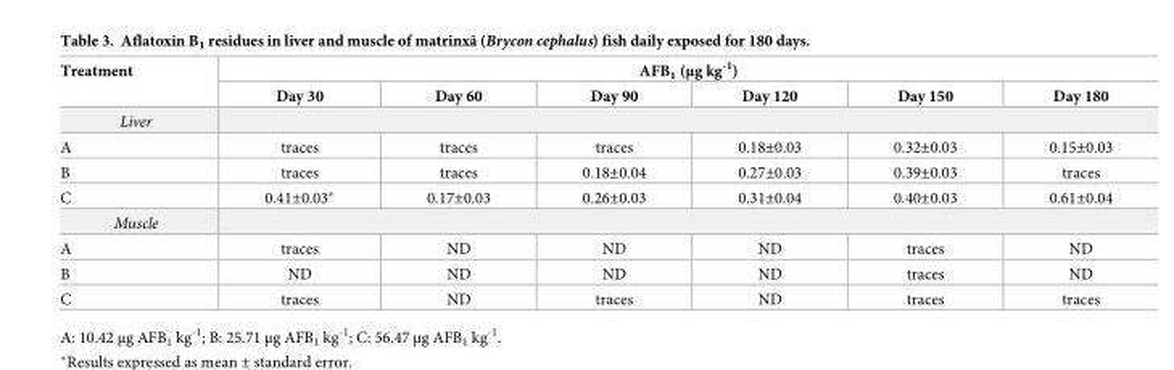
<table><thead><tr><td rowspan="2">Treatment</td><td colspan="6">AFB<sub>1</sub> (μg kg<sup>-1</sup>)</td></tr><tr><td>Day 30</td><td>Day 60</td><td>Day 90</td><td>Day 120</td><td>Day 150</td><td>Day 180</td></tr></thead><tbody><tr><td colspan="7">Liver</td></tr><tr><td>A</td><td>traces</td><td>traces</td><td>traces</td><td>0.18±0.03</td><td>0.32±0.03</td><td>0.15±0.03</td></tr><tr><td>B</td><td>traces</td><td>traces</td><td>0.18±0.04</td><td>0.27±0.03</td><td>0.39±0.03</td><td>traces</td></tr><tr><td>C</td><td>0.41±0.03*</td><td>0.17±0.03</td><td>0.26±0.03</td><td>0.31±0.04</td><td>0.40±0.03</td><td>0.61±0.04</td></tr><tr><td colspan="7">Muscle</td></tr><tr><td>A</td><td>traces</td><td>ND</td><td>ND</td><td>ND</td><td>traces</td><td>ND</td></tr><tr><td>B</td><td>ND</td><td>ND</td><td>ND</td><td>ND</td><td>traces</td><td>ND</td></tr><tr><td>C</td><td>traces</td><td>ND</td><td>traces</td><td>ND</td><td>traces</td><td>traces</td></tr></tbody></table>